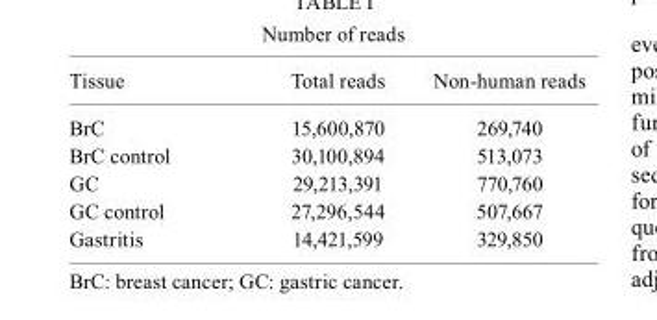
<table><thead><tr><td>Tissue</td><td>Total reads</td><td>Non-human reads</td></tr></thead><tbody><tr><td>BrC</td><td>15,600,870</td><td>269,740</td></tr><tr><td>BrC control</td><td>30,100,894</td><td>513,073</td></tr><tr><td>GC</td><td>29,213,391</td><td>770,760</td></tr><tr><td>GC control</td><td>27,296,544</td><td>507,667</td></tr><tr><td>Gastritis</td><td>14,421,599</td><td>329,850</td></tr></tbody></table>